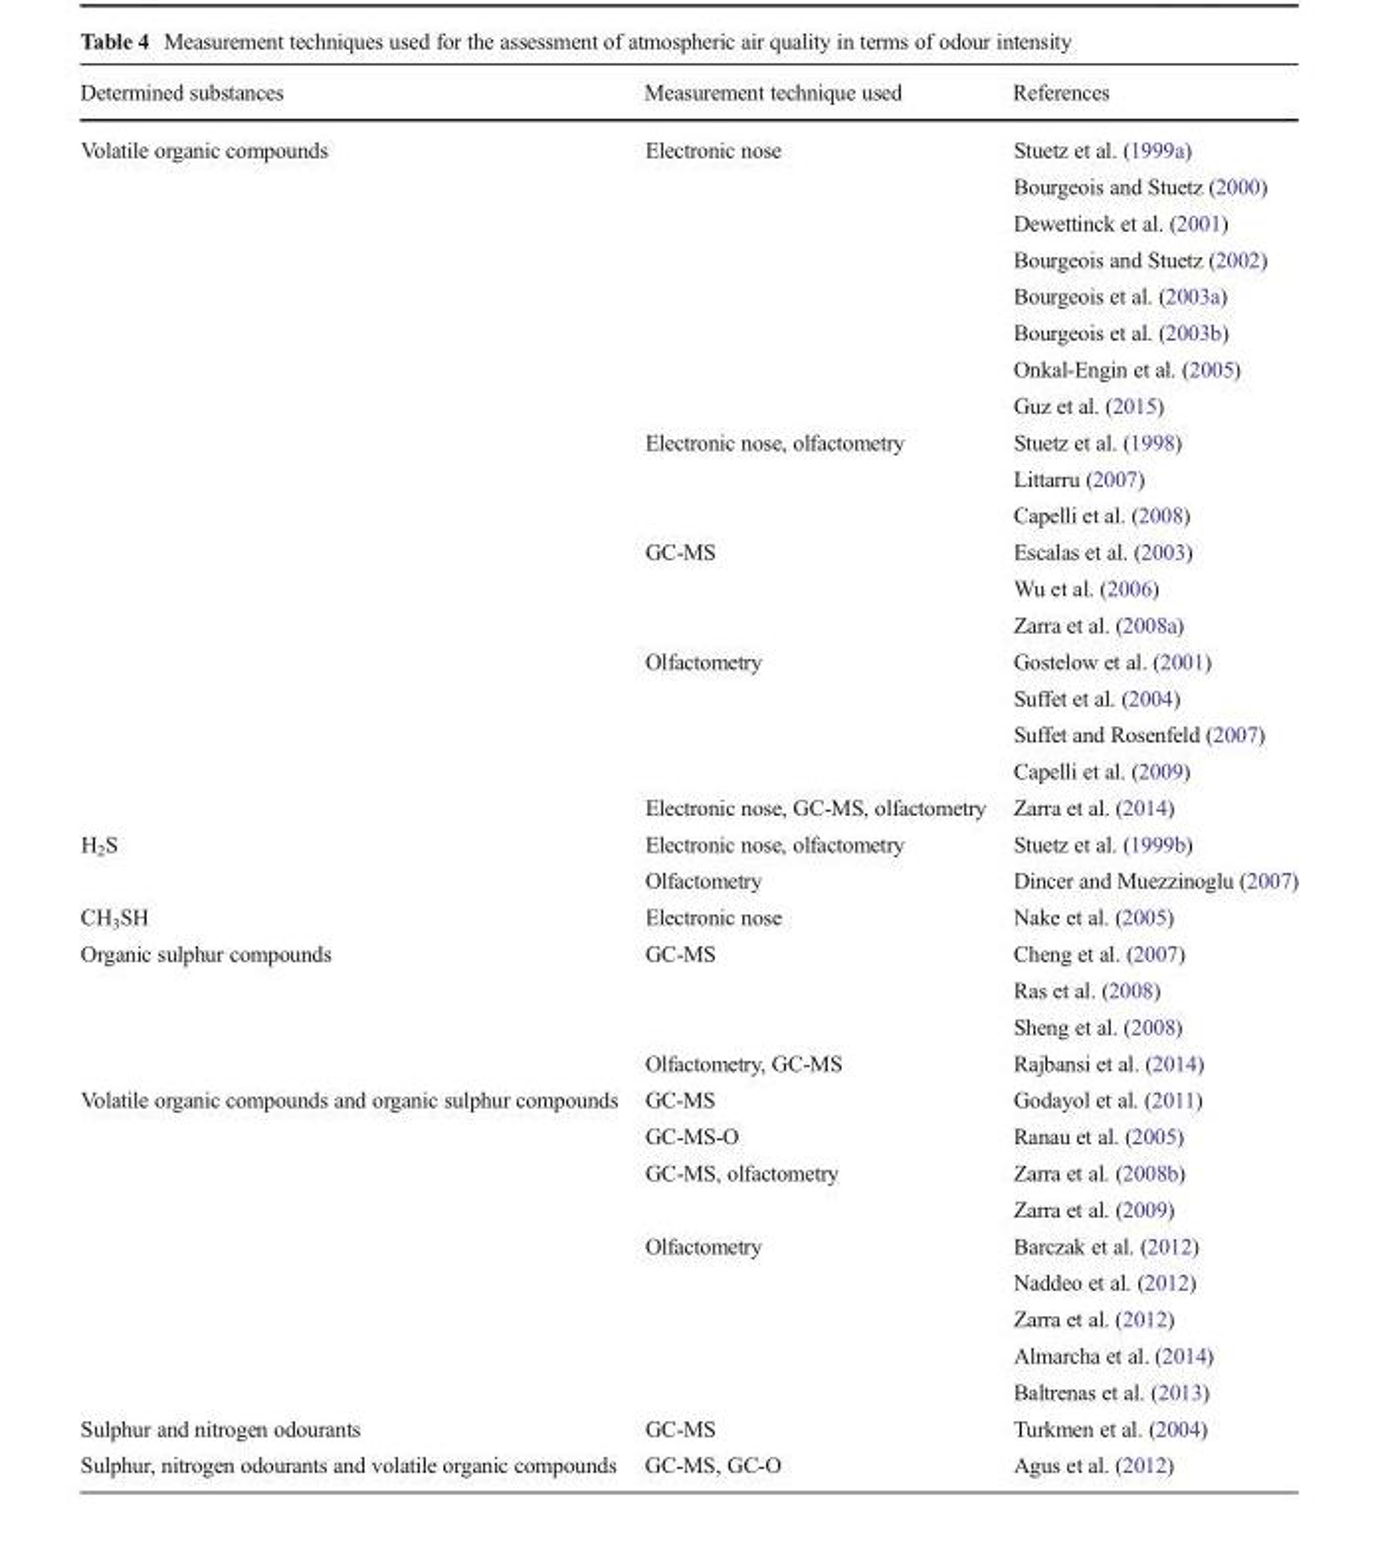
<table><thead><tr><td>Determined substances</td><td>Measurement technique used</td><td>References</td></tr></thead><tbody><tr><td rowspan="19">Volatile organic compounds</td><td rowspan="8">Electronic nose</td><td>Stuetz et al. (1999a)</td></tr><tr><td>Bourgeois and Stuetz (2000)</td></tr><tr><td>Dewettinck et al. (2001)</td></tr><tr><td>Bourgeois and Stuetz (2002)</td></tr><tr><td>Bourgeois et al. (2003a)</td></tr><tr><td>Bourgeois et al. (2003b)</td></tr><tr><td>Onkal-Engin et al. (2005)</td></tr><tr><td>Guz et al. (2015)</td></tr><tr><td rowspan="3">Electronic nose, olfactometry</td><td>Stuetz et al. (1998)</td></tr><tr><td>Littarru (2007)</td></tr><tr><td>Capelli et al. (2008)</td></tr><tr><td rowspan="3">GC-MS</td><td>Escalas et al. (2003)</td></tr><tr><td>Wu et al. (2006)</td></tr><tr><td>Zarra et al. (2008a)</td></tr><tr><td rowspan="4">Olfactometry</td><td>Gostelow et al. (2001)</td></tr><tr><td>Suffet et al. (2004)</td></tr><tr><td>Suffet and Rosenfeld (2007)</td></tr><tr><td>Capelli et al. (2009)</td></tr><tr><td>Electronic nose, GC-MS, olfactometry</td><td>Zarra et al. (2014)</td></tr><tr><td rowspan="2">H<sub>2</sub>S</td><td>Electronic nose, olfactometry</td><td>Stuetz et al. (1999b)</td></tr><tr><td>Olfactometry</td><td>Dincer and Muezzinoglu (2007)</td></tr><tr><td>CH<sub>3</sub>SH</td><td>Electronic nose</td><td>Nake et al. (2005)</td></tr><tr><td rowspan="4">Organic sulphur compounds</td><td rowspan="3">GC-MS</td><td>Cheng et al. (2007)</td></tr><tr><td>Ras et al. (2008)</td></tr><tr><td>Sheng et al. (2008)</td></tr><tr><td>Olfactometry, GC-MS</td><td>Rajbansi et al. (2014)</td></tr><tr><td rowspan="9">Volatile organic compounds and organic sulphur compounds</td><td>GC-MS</td><td>Godayol et al. (2011)</td></tr><tr><td>GC-MS-O</td><td>Ranau et al. (2005)</td></tr><tr><td rowspan="2">GC-MS, olfactometry</td><td>Zarra et al. (2008b)</td></tr><tr><td>Zarra et al. (2009)</td></tr><tr><td rowspan="5">Olfactometry</td><td>Barczak et al. (2012)</td></tr><tr><td>Naddeo et al. (2012)</td></tr><tr><td>Zarra et al. (2012)</td></tr><tr><td>Almarcha et al. (2014)</td></tr><tr><td>Baltrenas et al. (2013)</td></tr><tr><td>Sulphur and nitrogen odourants</td><td>GC-MS</td><td>Turkmen et al. (2004)</td></tr><tr><td>Sulphur, nitrogen odourants and volatile organic compounds</td><td>GC-MS, GC-O</td><td>Agus et al. (2012)</td></tr></tbody></table>